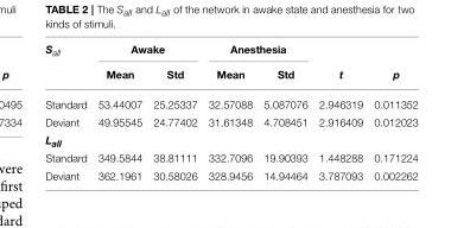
<table><thead><tr><td rowspan="2">Sall</td><td colspan="2">Awake</td><td colspan="2">Anesthesia</td><td rowspan="2">t</td><td rowspan="2">p</td></tr><tr><td>Mean</td><td>Std</td><td>Mean</td><td>Std</td></tr></thead><tbody><tr><td>Standard</td><td>53.44007</td><td>25.25337</td><td>32.57088</td><td>5.087076</td><td>2.946319</td><td>0.011352</td></tr><tr><td>Deviant</td><td>49.95545</td><td>24.77402</td><td>31.61348</td><td>4.708451</td><td>2.916409</td><td>0.012023</td></tr><tr><td colspan="7">L<sub>all</sub></td></tr><tr><td>Standard</td><td>349.5844</td><td>38.81111</td><td>332.7096</td><td>19.90393</td><td>1.448288</td><td>0.171224</td></tr><tr><td>Deviant</td><td>362.1961</td><td>30.58026</td><td>328.9456</td><td>14.94464</td><td>3.787093</td><td>0.002262</td></tr></tbody></table>